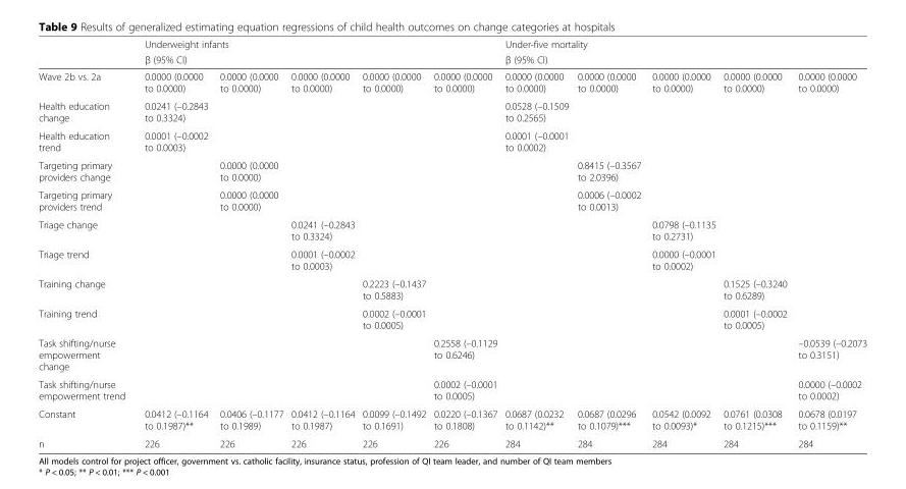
<table><thead><tr><td rowspan="3">Wave 2b vs. 2a</td><td rowspan="2" colspan="5">Underweight infants β (95% CI)</td><td rowspan="2" colspan="5">Under-five mortality β (95% CI)</td></tr><tr></tr><tr><td>0.0000 (0.0000 to 0.0000)</td><td>0.0000 (0.0000 to 0.0000)</td><td>0.0000 (0.0000 to 0.0000)</td><td>0.0000 (0.0000 to 0.0000)</td><td>0.0000 (0.0000 to 0.0000)</td><td>0.0000 (0.0000 to 0.0000)</td><td>0.0000 (0.0000 to 0.0000)</td><td>0.0000 (0.0000 to 0.0000)</td><td>0.0000 (0.0000 to 0.0000)</td><td>0.0000 (0.0000 to 0.0000)</td></tr></thead><tbody><tr><td>Health education change</td><td>0.0241 (–0.2843 to 0.3324)</td><td></td><td></td><td></td><td></td><td>0.0528 (–0.1509 to 0.2565)</td><td></td><td></td><td></td><td></td></tr><tr><td>Health education trend</td><td>0.0001 (–0.0002 to 0.0003)</td><td></td><td></td><td></td><td></td><td>0.0001 (–0.0001 to 0.0002)</td><td></td><td></td><td></td><td></td></tr><tr><td>Targeting primary providers change</td><td></td><td>0.0000 (0.0000 to 0.0000)</td><td></td><td></td><td></td><td></td><td>0.8415 (–0.3567 to 2.0396)</td><td></td><td></td><td></td></tr><tr><td>Targeting primary providers trend</td><td></td><td>0.0000 (0.0000 to 0.0000)</td><td></td><td></td><td></td><td></td><td>0.0006 (–0.0002 to 0.0013)</td><td></td><td></td><td></td></tr><tr><td>Triage change</td><td></td><td></td><td>0.0241 (–0.2843 to 0.3324)</td><td></td><td></td><td></td><td></td><td>0.0798 (–0.1135 to 0.2731)</td><td></td><td></td></tr><tr><td>Triage trend</td><td></td><td></td><td>0.0001 (–0.0002 to 0.0003)</td><td></td><td></td><td></td><td></td><td>0.0000 (–0.0001 to 0.0002)</td><td></td><td></td></tr><tr><td>Training change</td><td></td><td></td><td></td><td>0.2223 (–0.1437 to 0.5883)</td><td></td><td></td><td></td><td></td><td>0.1525 (–0.3240 to 0.6289)</td><td></td></tr><tr><td>Training trend</td><td></td><td></td><td></td><td>0.0002 (–0.0001 to 0.0005)</td><td></td><td></td><td></td><td></td><td>0.0001 (–0.0002 to 0.0005)</td><td></td></tr><tr><td>Task shifting/nurse empowerment change</td><td></td><td></td><td></td><td></td><td>0.2558 (–0.1129 to 0.6246)</td><td></td><td></td><td></td><td></td><td>–0.0539 (–0.2073 to 0.3151)</td></tr><tr><td>Task shifting/nurse empowerment trend</td><td></td><td></td><td></td><td></td><td>0.0002 (–0.0001 to 0.0005)</td><td></td><td></td><td></td><td></td><td>0.0000 (–0.0002 to 0.0002)</td></tr><tr><td>Constant</td><td>0.0412 (–0.1164 to 0.1987)**</td><td>0.0406 (–0.1177 to 0.1989)</td><td>0.0412 (–0.1164 to 0.1987)</td><td>0.0099 (–0.1492 to 0.1691)</td><td>0.0220 (–0.1367 to 0.1808)</td><td>0.0687 (0.0232 to 0.1142)**</td><td>0.0687 (0.0296 to 0.1079)***</td><td>0.0542 (0.0092 to 0.0093)*</td><td>0.0761 (0.0308 to 0.1215)***</td><td>0.0678 (0.0197 to 0.1159)**</td></tr><tr><td>n</td><td>226</td><td>226</td><td>226</td><td>226</td><td>226</td><td>284</td><td>284</td><td>284</td><td>284</td><td>284</td></tr></tbody></table>